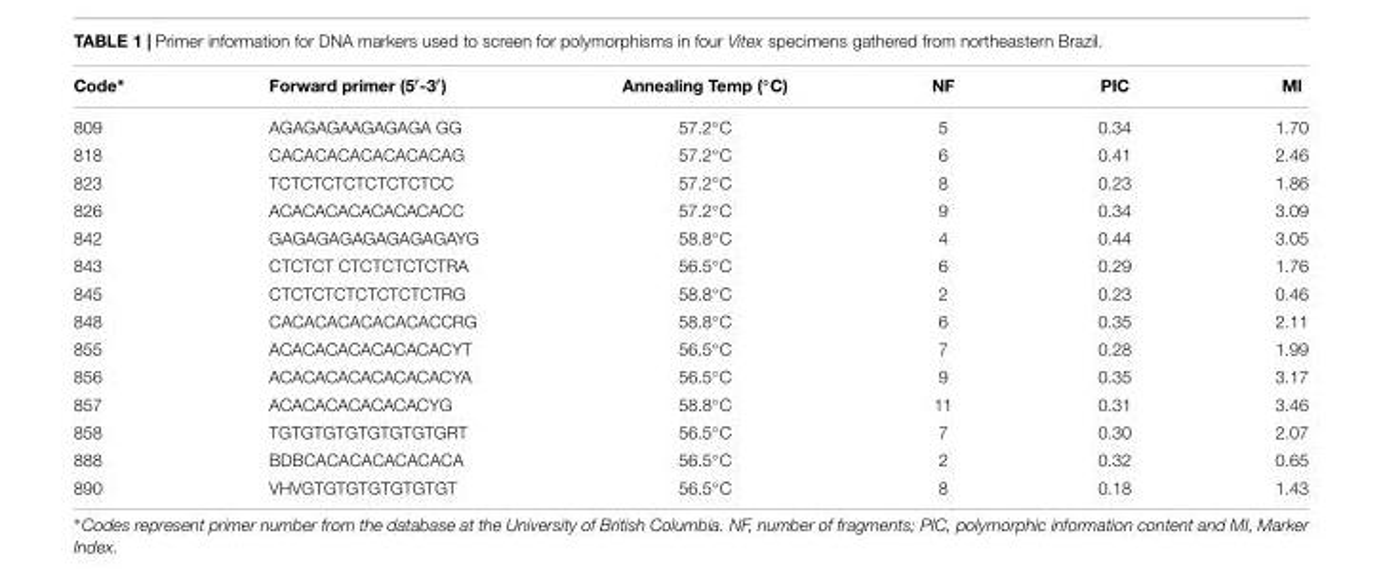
<table><thead><tr><td>Code∗</td><td>Forward primer (5′-3′)</td><td>Annealing Temp (◦C)</td><td>NF</td><td>PIC</td><td>MI</td></tr></thead><tbody><tr><td>809</td><td>AGAGAGAAGAGAGA GG</td><td>57.2◦C</td><td>5</td><td>0.34</td><td>1.70</td></tr><tr><td>818</td><td>CACACACACACACACAG</td><td>57.2◦C</td><td>6</td><td>0.41</td><td>2.46</td></tr><tr><td>823</td><td>TCTCTCTCTCTCTCTCC</td><td>57.2◦C</td><td>8</td><td>0.23</td><td>1.86</td></tr><tr><td>826</td><td>ACACACACACACACACC</td><td>57.2◦C</td><td>9</td><td>0.34</td><td>3.09</td></tr><tr><td>842</td><td>GAGAGAGAGAGAGAGAYG</td><td>58.8◦C</td><td>4</td><td>0.44</td><td>3.05</td></tr><tr><td>843</td><td>CTCTCT CTCTCTCTCTRA</td><td>56.5◦C</td><td>6</td><td>0.29</td><td>1.76</td></tr><tr><td>845</td><td>CTCTCTCTCTCTCTCTRG</td><td>58.8◦C</td><td>2</td><td>0.23</td><td>0.46</td></tr><tr><td>848</td><td>CACACACACACACACCRG</td><td>58.8◦C</td><td>6</td><td>0.35</td><td>2.11</td></tr><tr><td>855</td><td>ACACACACACACACACYT</td><td>56.5◦C</td><td>7</td><td>0.28</td><td>1.99</td></tr><tr><td>856</td><td>ACACACACACACACACYA</td><td>56.5◦C</td><td>9</td><td>0.35</td><td>3.17</td></tr><tr><td>857</td><td>ACACACACACACACYG</td><td>58.8◦C</td><td>11</td><td>0.31</td><td>3.46</td></tr><tr><td>858</td><td>TGTGTGTGTGTGTGTGRT</td><td>56.5◦C</td><td>7</td><td>0.30</td><td>2.07</td></tr><tr><td>888</td><td>BDBCACACACACACACA</td><td>56.5◦C</td><td>2</td><td>0.32</td><td>0.65</td></tr><tr><td>890</td><td>VHVGTGTGTGTGTGTGT</td><td>56.5◦C</td><td>8</td><td>0.18</td><td>1.43</td></tr></tbody></table>